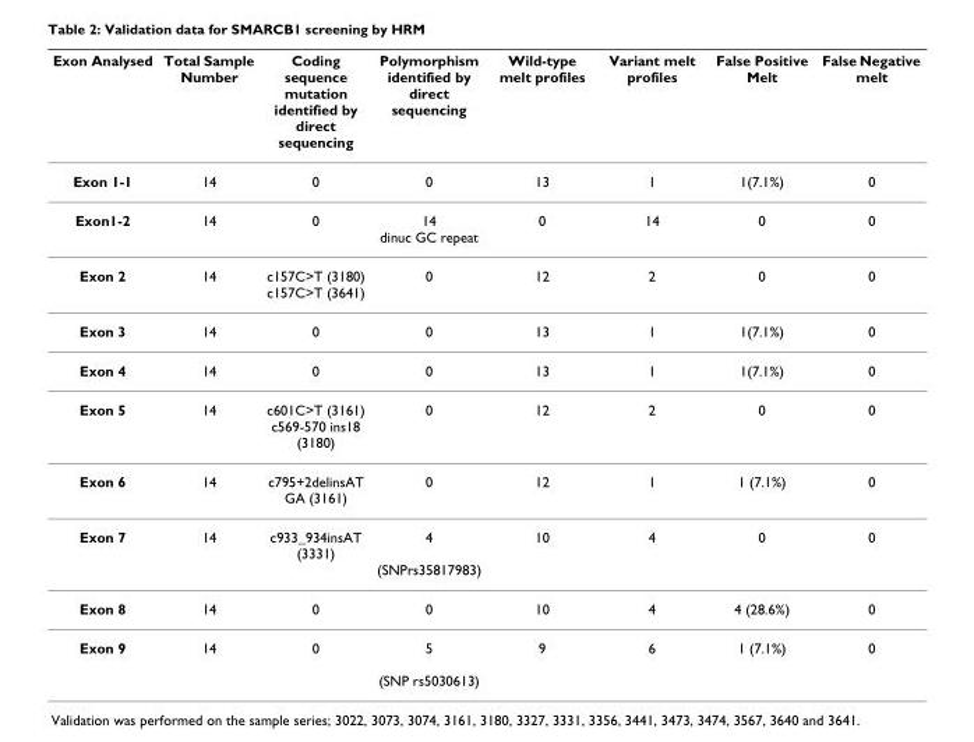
<table><thead><tr><td>Exon Analysed</td><td>Total Sample Number</td><td>Coding sequence mutation identified by direct sequencing</td><td>Polymorphism identified by direct sequencing</td><td>Wild-type melt profiles</td><td>Variant melt profiles</td><td>False Positive Melt</td><td>False Negative melt</td></tr></thead><tbody><tr><td>Exon 1-1</td><td>14</td><td>0</td><td>0</td><td>13</td><td>1</td><td>1(7.1%)</td><td>0</td></tr><tr><td>Exon1-2</td><td>14</td><td>0</td><td>14 dinuc GC repeat</td><td>0</td><td>14</td><td>0</td><td>0</td></tr><tr><td>Exon 2</td><td>14</td><td>c157C&gt;T (3180) c157C&gt;T (3641)</td><td>0</td><td>12</td><td>2</td><td>0</td><td>0</td></tr><tr><td>Exon 3</td><td>14</td><td>0</td><td>0</td><td>13</td><td>1</td><td>1(7.1%)</td><td>0</td></tr><tr><td>Exon 4</td><td>14</td><td>0</td><td>0</td><td>13</td><td>1</td><td>1(7.1%)</td><td>0</td></tr><tr><td>Exon 5</td><td>14</td><td>c601C&gt;T (3161) c569-570 ins18 (3180)</td><td>0</td><td>12</td><td>2</td><td>0</td><td>0</td></tr><tr><td>Exon 6</td><td>14</td><td>c795+2delinsAT GA (3161)</td><td>0</td><td>12</td><td>1</td><td>1 (7.1%)</td><td>0</td></tr><tr><td>Exon 7</td><td>14</td><td>c933_934insAT (3331)</td><td>4 (SNPrs35817983)</td><td>10</td><td>4</td><td>0</td><td>0</td></tr><tr><td>Exon 8</td><td>14</td><td>0</td><td>0</td><td>10</td><td>4</td><td>4 (28.6%)</td><td>0</td></tr><tr><td>Exon 9</td><td>14</td><td>0</td><td>5 (SNP rs5030613)</td><td>9</td><td>6</td><td>1 (7.1%)</td><td>0</td></tr></tbody></table>